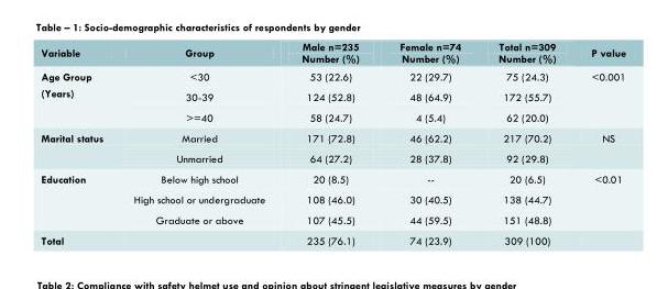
<table><thead><tr><td>Variable</td><td>Group</td><td>Male n=235 Number (%)</td><td>Female n=74 Number (%)</td><td>Total n=309 Number (%)</td><td>P value</td></tr></thead><tbody><tr><td rowspan="3">Age Group (Years)</td><td>&lt;30</td><td>53 (22.6)</td><td>22 (29.7)</td><td>75 (24.3)</td><td>&lt;0.001</td></tr><tr><td>30-39</td><td>124 (52.8)</td><td>48 (64.9)</td><td>172 (55.7)</td><td></td></tr><tr><td>&gt;=40</td><td>58 (24.7)</td><td>4 (5.4)</td><td>62 (20.0)</td><td></td></tr><tr><td rowspan="2">Marital status</td><td>Married</td><td>171 (72.8)</td><td>46 (62.2)</td><td>217 (70.2)</td><td>NS</td></tr><tr><td>Unmarried</td><td>64 (27.2)</td><td>28 (37.8)</td><td>92 (29.8)</td><td></td></tr><tr><td rowspan="3">Education</td><td>Below high school</td><td>20 (8.5)</td><td>--</td><td>20 (6.5)</td><td>&lt;0.01</td></tr><tr><td>High school or undergraduate</td><td>108 (46.0)</td><td>30 (40.5)</td><td>138 (44.7)</td><td></td></tr><tr><td>Graduate or above</td><td>107 (45.5)</td><td>44 (59.5)</td><td>151 (48.8)</td><td></td></tr><tr><td>Total</td><td></td><td>235 (76.1)</td><td>74 (23.9)</td><td>309 (100)</td><td></td></tr></tbody></table>